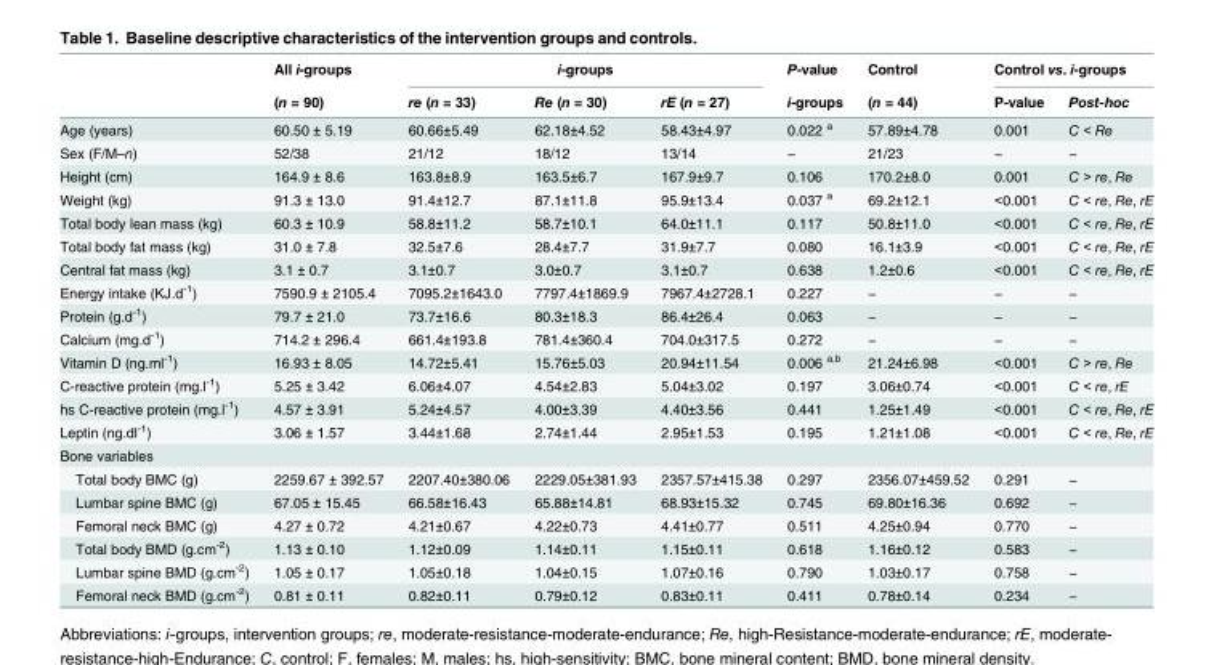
<table><thead><tr><td rowspan="2"></td><td rowspan="2">All i-groups (n = 90)</td><td colspan="3">i-groups</td><td rowspan="2">P-value i-groups</td><td rowspan="2">Control (n = 44)</td><td colspan="2">Control vs. i-groups</td></tr><tr><td>re (n = 33)</td><td>Re (n = 30)</td><td>rE (n = 27)</td><td>P-value</td><td>Post-hoc</td></tr></thead><tbody><tr><td>Age (years)</td><td>60.50 ± 5.19</td><td>60.66±5.49</td><td>62.18±4.52</td><td>58.43±4.97</td><td>0.022 <sup>a</sup></td><td>57.89±4.78</td><td>0.001</td><td>C &lt; Re</td></tr><tr><td>Sex (F/M–n)</td><td>52/38</td><td>21/12</td><td>18/12</td><td>13/14</td><td>−</td><td>21/23</td><td>−</td><td>−</td></tr><tr><td>Height (cm)</td><td>164.9 ± 8.6</td><td>163.8±8.9</td><td>163.5±6.7</td><td>167.9±9.7</td><td>0.106</td><td>170.2±8.0</td><td>0.001</td><td>C &gt; re, Re</td></tr><tr><td>Weight (kg)</td><td>91.3 ± 13.0</td><td>91.4±12.7</td><td>87.1±11.8</td><td>95.9±13.4</td><td>0.037 <sup>a</sup></td><td>69.2±12.1</td><td>&lt;0.001</td><td>C &lt; re, Re, rE</td></tr><tr><td>Total body lean mass (kg)</td><td>60.3 ± 10.9</td><td>58.8±11.2</td><td>58.7±10.1</td><td>64.0±11.1</td><td>0.117</td><td>50.8±11.0</td><td>&lt;0.001</td><td>C &lt; re, Re, rE</td></tr><tr><td>Total body fat mass (kg)</td><td>31.0 ± 7.8</td><td>32.5±7.6</td><td>28.4±7.7</td><td>31.9±7.7</td><td>0.080</td><td>16.1±3.9</td><td>&lt;0.001</td><td>C &lt; re, Re, rE</td></tr><tr><td>Central fat mass (kg)</td><td>3.1 ± 0.7</td><td>3.1±0.7</td><td>3.0±0.7</td><td>3.1±0.7</td><td>0.638</td><td>1.2±0.6</td><td>&lt;0.001</td><td>C &lt; re, Re, rE</td></tr><tr><td>Energy intake (KJ.d<sup>-1</sup>)</td><td>7590.9 ± 2105.4</td><td>7095.2±1643.0</td><td>7797.4±1869.9</td><td>7967.4±2728.1</td><td>0.227</td><td>−</td><td>−</td><td>−</td></tr><tr><td>Protein (g.d<sup>-1</sup>)</td><td>79.7 ± 21.0</td><td>73.7±16.6</td><td>80.3±18.3</td><td>86.4±26.4</td><td>0.063</td><td>−</td><td>−</td><td>−</td></tr><tr><td>Calcium (mg.d<sup>-1</sup>)</td><td>714.2 ± 296.4</td><td>661.4±193.8</td><td>781.4±360.4</td><td>704.0±317.5</td><td>0.272</td><td>−</td><td>−</td><td>−</td></tr><tr><td>Vitamin D (ng.ml<sup>-1</sup>)</td><td>16.93 ± 8.05</td><td>14.72±5.41</td><td>15.76±5.03</td><td>20.94±11.54</td><td>0.006 <sup>a,b</sup></td><td>21.24±6.98</td><td>&lt;0.001</td><td>C &gt; re, Re</td></tr><tr><td>C-reactive protein (mg.l<sup>-1</sup>)</td><td>5.25 ± 3.42</td><td>6.06±4.07</td><td>4.54±2.83</td><td>5.04±3.02</td><td>0.197</td><td>3.06±0.74</td><td>&lt;0.001</td><td>C &lt; re, rE</td></tr><tr><td>hs C-reactive protein (mg.l<sup>-1</sup>)</td><td>4.57 ± 3.91</td><td>5.24±4.57</td><td>4.00±3.39</td><td>4.40±3.56</td><td>0.441</td><td>1.25±1.49</td><td>&lt;0.001</td><td>C &lt; re, Re, rE</td></tr><tr><td>Leptin (ng.dl<sup>-1</sup>)</td><td>3.06 ± 1.57</td><td>3.44±1.68</td><td>2.74±1.44</td><td>2.95±1.53</td><td>0.195</td><td>1.21±1.08</td><td>&lt;0.001</td><td>C &lt; re, Re, rE</td></tr><tr><td colspan="9">Bone variables</td></tr><tr><td>Total body BMC (g)</td><td>2259.67 ± 392.57</td><td>2207.40±380.06</td><td>2229.05±381.93</td><td>2357.57±415.38</td><td>0.297</td><td>2356.07±459.52</td><td>0.291</td><td>−</td></tr><tr><td>Lumbar spine BMC (g)</td><td>67.05 ± 15.45</td><td>66.58±16.43</td><td>65.88±14.81</td><td>68.93±15.32</td><td>0.745</td><td>69.80±16.36</td><td>0.692</td><td>−</td></tr><tr><td>Femoral neck BMC (g)</td><td>4.27 ± 0.72</td><td>4.21±0.67</td><td>4.22±0.73</td><td>4.41±0.77</td><td>0.511</td><td>4.25±0.94</td><td>0.770</td><td>−</td></tr><tr><td>Total body BMD (g.cm<sup>-2</sup>)</td><td>1.13 ± 0.10</td><td>1.12±0.09</td><td>1.14±0.11</td><td>1.15±0.11</td><td>0.618</td><td>1.16±0.12</td><td>0.583</td><td>−</td></tr><tr><td>Lumbar spine BMD (g.cm<sup>-2</sup>)</td><td>1.05 ± 0.17</td><td>1.05±0.18</td><td>1.04±0.15</td><td>1.07±0.16</td><td>0.790</td><td>1.03±0.17</td><td>0.758</td><td>−</td></tr><tr><td>Femoral neck BMD (g.cm<sup>-2</sup>)</td><td>0.81 ± 0.11</td><td>0.82±0.11</td><td>0.79±0.12</td><td>0.83±0.11</td><td>0.411</td><td>0.78±0.14</td><td>0.234</td><td>−</td></tr></tbody></table>